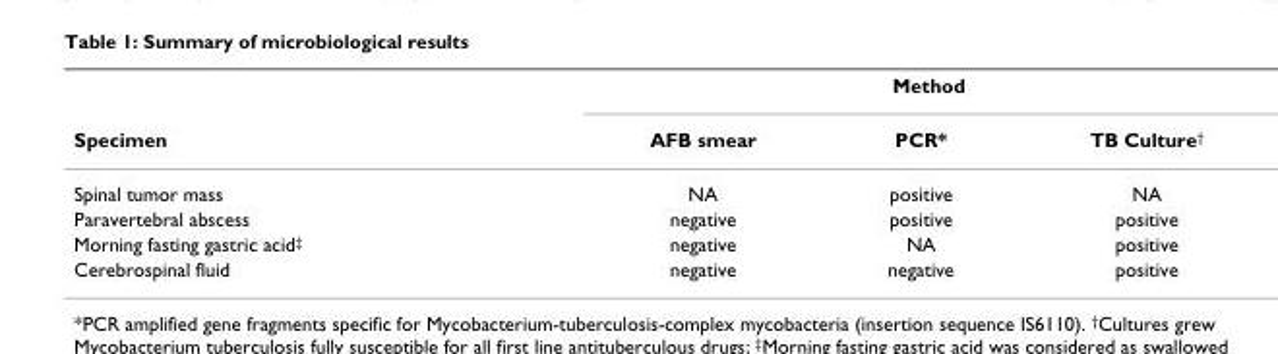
<table><thead><tr><td rowspan="2">Specimen</td><td colspan="3">Method</td></tr><tr><td>AFB smear</td><td>PCR*</td><td>TB Culture<sup>†</sup></td></tr></thead><tbody><tr><td>Spinal tumor mass</td><td>NA</td><td>positive</td><td>NA</td></tr><tr><td>Paravertebral abscess</td><td>negative</td><td>positive</td><td>positive</td></tr><tr><td>Morning fasting gastric acid<sup>‡</sup></td><td>negative</td><td>NA</td><td>positive</td></tr><tr><td>Cerebrospinal fluid</td><td>negative</td><td>negative</td><td>positive</td></tr></tbody></table>